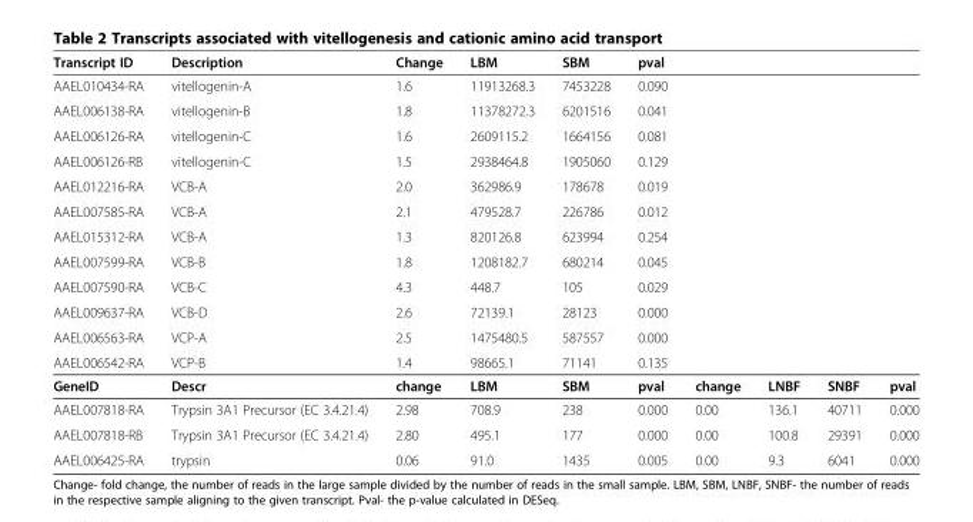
<table><thead><tr><td>Transcript ID</td><td>Description</td><td>Change</td><td>LBM</td><td>SBM</td><td>pval</td><td></td><td></td><td></td><td></td></tr></thead><tbody><tr><td>AAEL010434-RA</td><td>vitellogenin-A</td><td>1.6</td><td>11913268.3</td><td>7453228</td><td>0.090</td><td></td><td></td><td></td><td></td></tr><tr><td>AAEL006138-RA</td><td>vitellogenin-B</td><td>1.8</td><td>11378272.3</td><td>6201516</td><td>0.041</td><td></td><td></td><td></td><td></td></tr><tr><td>AAEL006126-RA</td><td>vitellogenin-C</td><td>1.6</td><td>2609115.2</td><td>1664156</td><td>0.081</td><td></td><td></td><td></td><td></td></tr><tr><td>AAEL006126-RB</td><td>vitellogenin-C</td><td>1.5</td><td>2938464.8</td><td>1905060</td><td>0.129</td><td></td><td></td><td></td><td></td></tr><tr><td>AAEL012216-RA</td><td>VCB-A</td><td>2.0</td><td>362986.9</td><td>178678</td><td>0.019</td><td></td><td></td><td></td><td></td></tr><tr><td>AAEL007585-RA</td><td>VCB-A</td><td>2.1</td><td>479528.7</td><td>226786</td><td>0.012</td><td></td><td></td><td></td><td></td></tr><tr><td>AAEL015312-RA</td><td>VCB-A</td><td>1.3</td><td>820126.8</td><td>623994</td><td>0.254</td><td></td><td></td><td></td><td></td></tr><tr><td>AAEL007599-RA</td><td>VCB-B</td><td>1.8</td><td>1208182.7</td><td>680214</td><td>0.045</td><td></td><td></td><td></td><td></td></tr><tr><td>AAEL007590-RA</td><td>VCB-C</td><td>4.3</td><td>448.7</td><td>105</td><td>0.029</td><td></td><td></td><td></td><td></td></tr><tr><td>AAEL009637-RA</td><td>VCB-D</td><td>2.6</td><td>72139.1</td><td>28123</td><td>0.000</td><td></td><td></td><td></td><td></td></tr><tr><td>AAEL006563-RA</td><td>VCP-A</td><td>2.5</td><td>1475480.5</td><td>587557</td><td>0.000</td><td></td><td></td><td></td><td></td></tr><tr><td>AAEL006542-RA</td><td>VCP-B</td><td>1.4</td><td>98665.1</td><td>71141</td><td>0.135</td><td></td><td></td><td></td><td></td></tr><tr><td>GeneID</td><td>Descr</td><td>change</td><td>LBM</td><td>SBM</td><td>pval</td><td>change</td><td>LNBF</td><td>SNBF</td><td>pval</td></tr><tr><td>AAEL007818-RA</td><td>Trypsin 3A1 Precursor (EC 3.4.21.4)</td><td>2.98</td><td>708.9</td><td>238</td><td>0.000</td><td>0.00</td><td>136.1</td><td>40711</td><td>0.000</td></tr><tr><td>AAEL007818-RB</td><td>Trypsin 3A1 Precursor (EC 3.4.21.4)</td><td>2.80</td><td>495.1</td><td>177</td><td>0.000</td><td>0.00</td><td>100.8</td><td>29391</td><td>0.000</td></tr><tr><td>AAEL006425-RA</td><td>trypsin</td><td>0.06</td><td>91.0</td><td>1435</td><td>0.005</td><td>0.00</td><td>9.3</td><td>6041</td><td>0.000</td></tr></tbody></table>